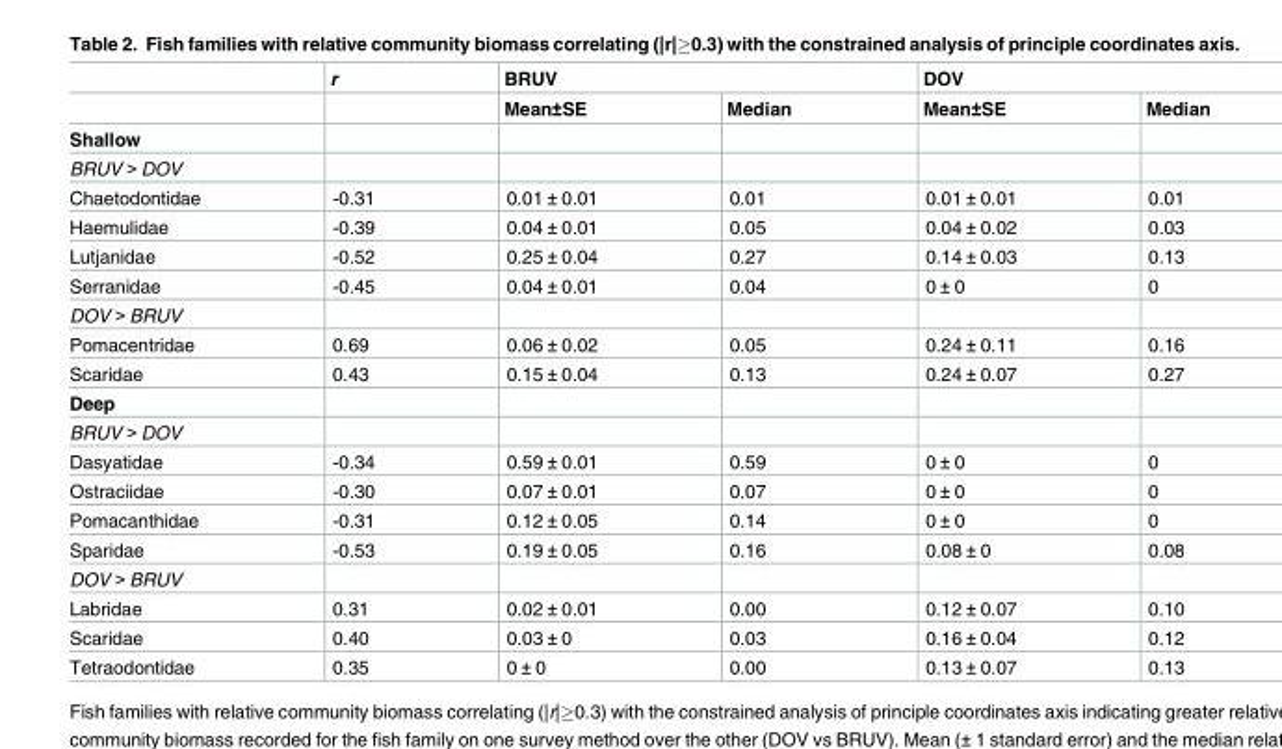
<table><thead><tr><td rowspan="2"></td><td rowspan="2">r</td><td colspan="2">BRUV</td><td colspan="2">DOV</td></tr><tr><td>Mean±SE</td><td>Median</td><td>Mean±SE</td><td>Median</td></tr></thead><tbody><tr><td colspan="6">Shallow</td></tr><tr><td colspan="6">BRUV &gt; DOV</td></tr><tr><td>Chaetodontidae</td><td>-0.31</td><td>0.01 ± 0.01</td><td>0.01</td><td>0.01 ± 0.01</td><td>0.01</td></tr><tr><td>Haemulidae</td><td>-0.39</td><td>0.04 ± 0.01</td><td>0.05</td><td>0.04 ± 0.02</td><td>0.03</td></tr><tr><td>Lutjanidae</td><td>-0.52</td><td>0.25 ± 0.04</td><td>0.27</td><td>0.14 ± 0.03</td><td>0.13</td></tr><tr><td>Serranidae</td><td>-0.45</td><td>0.04 ± 0.01</td><td>0.04</td><td>0 ± 0</td><td>0</td></tr><tr><td colspan="6">DOV &gt; BRUV</td></tr><tr><td>Pomacentridae</td><td>0.69</td><td>0.06 ± 0.02</td><td>0.05</td><td>0.24 ± 0.11</td><td>0.16</td></tr><tr><td>Scaridae</td><td>0.43</td><td>0.15 ± 0.04</td><td>0.13</td><td>0.24 ± 0.07</td><td>0.27</td></tr><tr><td colspan="6">Deep</td></tr><tr><td colspan="6">BRUV &gt; DOV</td></tr><tr><td>Dasyatidae</td><td>-0.34</td><td>0.59 ± 0.01</td><td>0.59</td><td>0 ± 0</td><td>0</td></tr><tr><td>Ostraciidae</td><td>-0.30</td><td>0.07 ± 0.01</td><td>0.07</td><td>0 ± 0</td><td>0</td></tr><tr><td>Pomacanthidae</td><td>-0.31</td><td>0.12 ± 0.05</td><td>0.14</td><td>0 ± 0</td><td>0</td></tr><tr><td>Sparidae</td><td>-0.53</td><td>0.19 ± 0.05</td><td>0.16</td><td>0.08 ± 0</td><td>0.08</td></tr><tr><td colspan="6">DOV &gt; BRUV</td></tr><tr><td>Labridae</td><td>0.31</td><td>0.02 ± 0.01</td><td>0.00</td><td>0.12 ± 0.07</td><td>0.10</td></tr><tr><td>Scaridae</td><td>0.40</td><td>0.03 ± 0</td><td>0.03</td><td>0.16 ± 0.04</td><td>0.12</td></tr><tr><td>Tetraodontidae</td><td>0.35</td><td>0 ± 0</td><td>0.00</td><td>0.13 ± 0.07</td><td>0.13</td></tr></tbody></table>